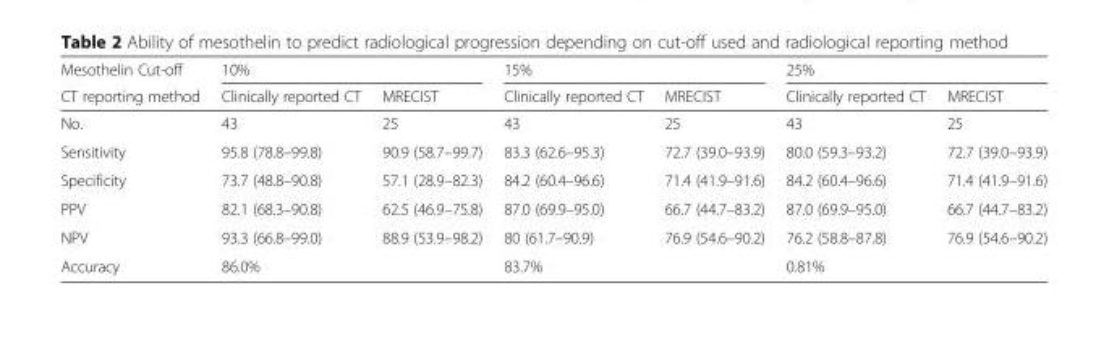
<table><thead><tr><td rowspan="2">Mesothelin Cut-off CT reporting method</td><td colspan="2">10%</td><td colspan="2">15%</td><td colspan="2">25%</td></tr><tr><td>Clinically reported CT</td><td>MRECIST</td><td>Clinically reported CT</td><td>MRECIST</td><td>Clinically reported CT</td><td>MRECIST</td></tr></thead><tbody><tr><td>No.</td><td>43</td><td>25</td><td>43</td><td>25</td><td>43</td><td>25</td></tr><tr><td>Sensitivity</td><td>95.8 (78.8–99.8)</td><td>90.9 (58.7–99.7)</td><td>83.3 (62.6–95.3)</td><td>72.7 (39.0–93.9)</td><td>80.0 (59.3–93.2)</td><td>72.7 (39.0–93.9)</td></tr><tr><td>Specificity</td><td>73.7 (48.8–90.8)</td><td>57.1 (28.9–82.3)</td><td>84.2 (60.4–96.6)</td><td>71.4 (41.9–91.6)</td><td>84.2 (60.4–96.6)</td><td>71.4 (41.9–91.6)</td></tr><tr><td>PPV</td><td>82.1 (68.3–90.8)</td><td>62.5 (46.9–75.8)</td><td>87.0 (69.9–95.0)</td><td>66.7 (44.7–83.2)</td><td>87.0 (69.9–95.0)</td><td>66.7 (44.7–83.2)</td></tr><tr><td>NPV</td><td>93.3 (66.8–99.0)</td><td>88.9 (53.9–98.2)</td><td>80 (61.7–90.9)</td><td>76.9 (54.6–90.2)</td><td>76.2 (58.8–87.8)</td><td>76.9 (54.6–90.2)</td></tr><tr><td>Accuracy</td><td>86.0%</td><td></td><td>83.7%</td><td></td><td>0.81%</td><td></td></tr></tbody></table>